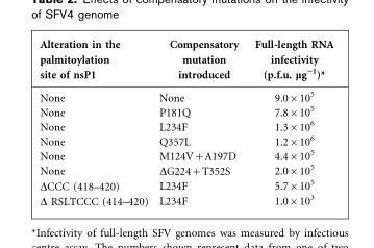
<table><thead><tr><td>Alteration in the palmitoylation site of nsP1</td><td>Compensatory mutation introduced</td><td>Full-length RNA infectivity (p.f.u. mg”1)*</td></tr></thead><tbody><tr><td>None</td><td>None</td><td>9.0×10<sup>5</sup></td></tr><tr><td>None</td><td>P181Q</td><td>7.8×10<sup>5</sup></td></tr><tr><td>None</td><td>L234F</td><td>1.3×10<sup>6</sup></td></tr><tr><td>None</td><td>Q357L</td><td>1.2×10<sup>6</sup></td></tr><tr><td>None</td><td>M124V+A197D</td><td>4.4×10<sup>5</sup></td></tr><tr><td>None</td><td>ΔG224+T352S</td><td>2.0×10<sup>5</sup></td></tr><tr><td>ΔCCC (418–420)</td><td>L234F</td><td>5.7×10<sup>5</sup></td></tr><tr><td>Δ RSLTCCC (414–420)</td><td>L234F</td><td>1.0×10<sup>3</sup></td></tr></tbody></table>